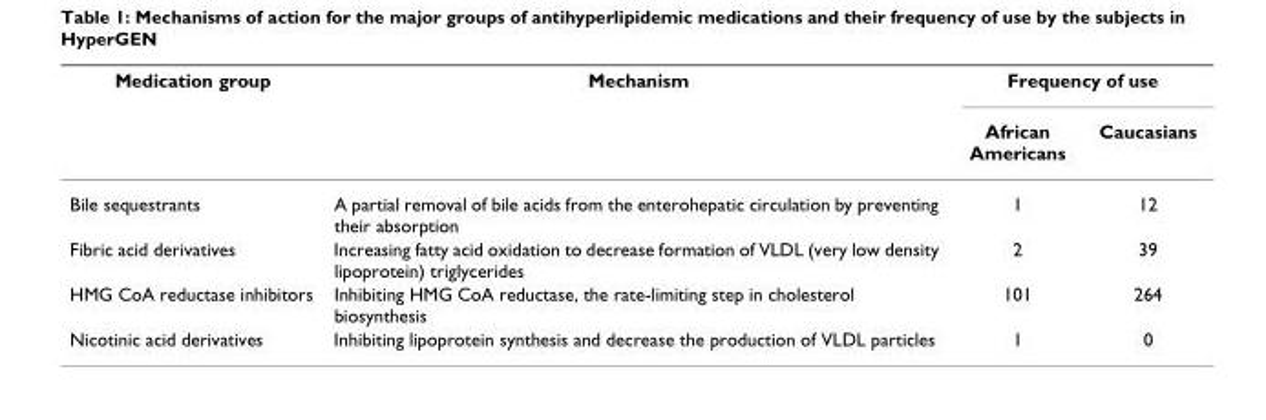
<table><thead><tr><td rowspan="2">Medication group</td><td rowspan="2">Mechanism</td><td colspan="2">Frequency of use</td></tr><tr><td>African Americans</td><td>Caucasians</td></tr></thead><tbody><tr><td>Bile sequestrants</td><td>A partial removal of bile acids from the enterohepatic circulation by preventing their absorption</td><td>1</td><td>12</td></tr><tr><td>Fibric acid derivatives</td><td>Increasing fatty acid oxidation to decrease formation of VLDL (very low density lipoprotein) triglycerides</td><td>2</td><td>39</td></tr><tr><td>HMG CoA reductase inhibitors</td><td>Inhibiting HMG CoA reductase, the rate-limiting step in cholesterol biosynthesis</td><td>101</td><td>264</td></tr><tr><td>Nicotinic acid derivatives</td><td>Inhibiting lipoprotein synthesis and decrease the production of VLDL particles</td><td>1</td><td>0</td></tr></tbody></table>